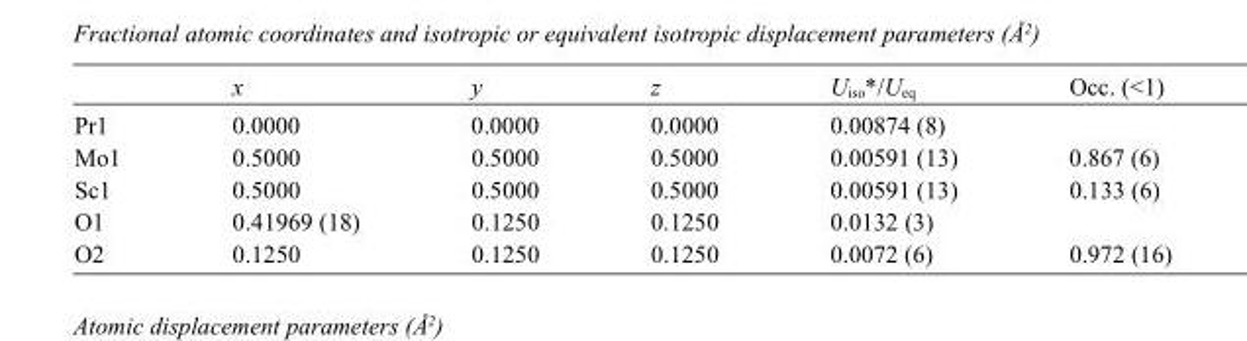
<table><thead><tr><td></td><td>x</td><td>y</td><td>z</td><td>U<sub>iso</sub>*/U<sub>eq</sub></td><td>Occ. (&lt;1)</td></tr></thead><tbody><tr><td>Pr1</td><td>0.0000</td><td>0.0000</td><td>0.0000</td><td>0.00874 (8)</td><td></td></tr><tr><td>Mo1</td><td>0.5000</td><td>0.5000</td><td>0.5000</td><td>0.00591 (13)</td><td>0.867 (6)</td></tr><tr><td>Sc1</td><td>0.5000</td><td>0.5000</td><td>0.5000</td><td>0.00591 (13)</td><td>0.133 (6)</td></tr><tr><td>O1</td><td>0.41969 (18)</td><td>0.1250</td><td>0.1250</td><td>0.0132 (3)</td><td></td></tr><tr><td>O2</td><td>0.1250</td><td>0.1250</td><td>0.1250</td><td>0.0072 (6)</td><td>0.972 (16)</td></tr></tbody></table>